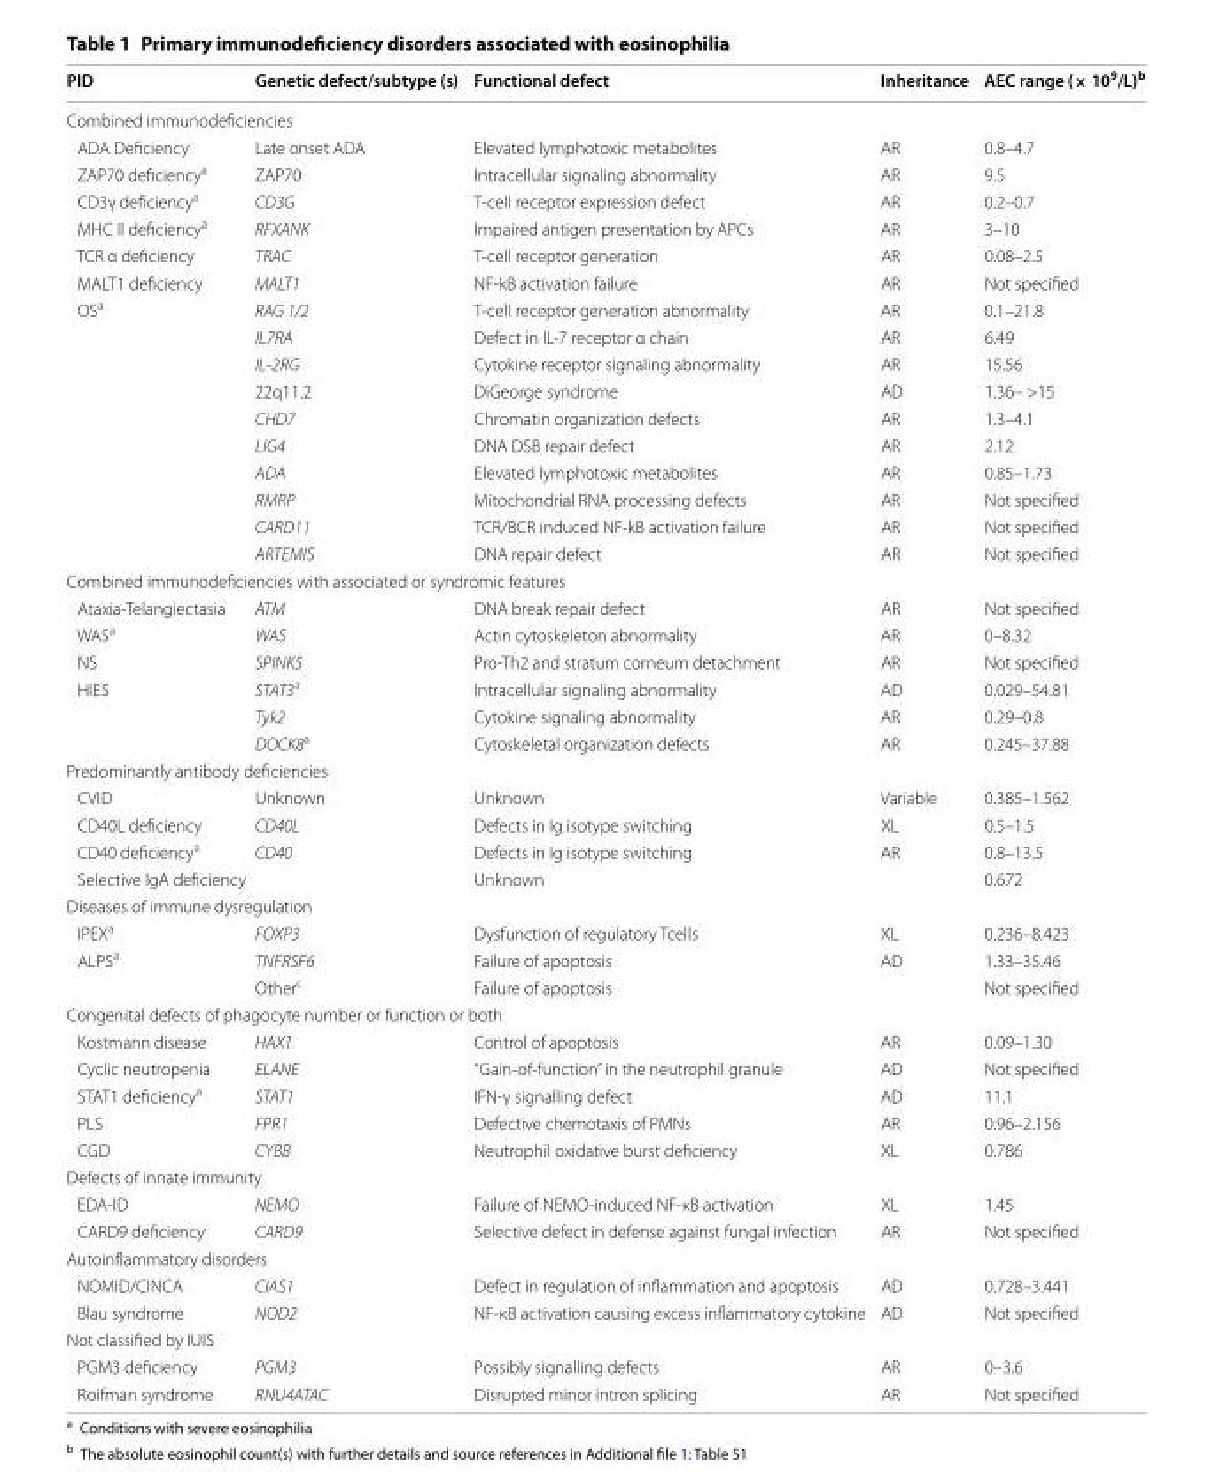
<table><thead><tr><td>PID</td><td>Genetic defect/subtype (s)</td><td>Functional defect</td><td>Inheritance</td><td>AEC range (× 10<sup>9</sup>/L)<sup>b</sup></td></tr></thead><tbody><tr><td colspan="5">Combined immunodeficiencies</td></tr><tr><td>ADA Deficiency</td><td>Late onset ADA</td><td>Elevated lymphotoxic metabolites</td><td>AR</td><td>0.8–4.7</td></tr><tr><td>ZAP70 deficiency<sup>a</sup></td><td>ZAP70</td><td>Intracellular signaling abnormality</td><td>AR</td><td>9.5</td></tr><tr><td>CD3γ deficiency<sup>a</sup></td><td>CD3G</td><td>T-cell receptor expression defect</td><td>AR</td><td>0.2–0.7</td></tr><tr><td>MHC II deficiency<sup>a</sup></td><td>RFXANK</td><td>Impaired antigen presentation by APCs</td><td>AR</td><td>3–10</td></tr><tr><td>TCR α deficiency</td><td>TRAC</td><td>T-cell receptor generation</td><td>AR</td><td>0.08–2.5</td></tr><tr><td>MALT1 deficiency</td><td>MALT1</td><td>NF-kB activation failure</td><td>AR</td><td>Not specified</td></tr><tr><td rowspan="10">OS<sup>a</sup></td><td>RAG 1/2</td><td>T-cell receptor generation abnormality</td><td>AR</td><td>0.1–21.8</td></tr><tr><td>IL7RA</td><td>Defect in IL-7 receptor α chain</td><td>AR</td><td>6.49</td></tr><tr><td>IL-2RG</td><td>Cytokine receptor signaling abnormality</td><td>AR</td><td>15.56</td></tr><tr><td>22q11.2</td><td>DiGeorge syndrome</td><td>AD</td><td>1.36– &gt;15</td></tr><tr><td>CHD7</td><td>Chromatin organization defects</td><td>AR</td><td>1.3–4.1</td></tr><tr><td>LIG4</td><td>DNA DSB repair defect</td><td>AR</td><td>2.12</td></tr><tr><td>ADA</td><td>Elevated lymphotoxic metabolites</td><td>AR</td><td>0.85–1.73</td></tr><tr><td>RMRP</td><td>Mitochondrial RNA processing defects</td><td>AR</td><td>Not specified</td></tr><tr><td>CARD11</td><td>TCR/BCR induced NF-kB activation failure</td><td>AR</td><td>Not specified</td></tr><tr><td>ARTEMIS</td><td>DNA repair defect</td><td>AR</td><td>Not specified</td></tr><tr><td colspan="5">Combined immunodeficiencies with associated or syndromic features</td></tr><tr><td>Ataxia-Telangiectasia</td><td>ATM</td><td>DNA break repair defect</td><td>AR</td><td>Not specified</td></tr><tr><td>WAS<sup>a</sup></td><td>WAS</td><td>Actin cytoskeleton abnormality</td><td>AR</td><td>0–8.32</td></tr><tr><td>NS</td><td>SPINK5</td><td>Pro-Th2 and stratum corneum detachment</td><td>AR</td><td>Not specified</td></tr><tr><td rowspan="3">HIES</td><td>STAT3<sup>a</sup></td><td>Intracellular signaling abnormality</td><td>AD</td><td>0.029–54.81</td></tr><tr><td>Tyk2</td><td>Cytokine signaling abnormality</td><td>AR</td><td>0.29–0.8</td></tr><tr><td>DOCK8<sup>a</sup></td><td>Cytoskeletal organization defects</td><td>AR</td><td>0.245–37.88</td></tr><tr><td colspan="5">Predominantly antibody deficiencies</td></tr><tr><td>CVID</td><td>Unknown</td><td>Unknown</td><td>Variable</td><td>0.385–1.562</td></tr><tr><td>CD40L deficiency</td><td>CD40L</td><td>Defects in Ig isotype switching</td><td>XL</td><td>0.5–1.5</td></tr><tr><td>CD40 deficiency<sup>a</sup></td><td>CD40</td><td>Defects in Ig isotype switching</td><td>AR</td><td>0.8–13.5</td></tr><tr><td>Selective IgA deficiency</td><td></td><td>Unknown</td><td></td><td>0.672</td></tr><tr><td colspan="5">Diseases of immune dysregulation</td></tr><tr><td>IPEX<sup>a</sup></td><td>FOXP3</td><td>Dysfunction of regulatory Tcells</td><td>XL</td><td>0.236–8.423</td></tr><tr><td rowspan="2">ALPS<sup>a</sup></td><td>TNFRSF6</td><td>Failure of apoptosis</td><td>AD</td><td>1.33–35.46</td></tr><tr><td>Other<sup>c</sup></td><td>Failure of apoptosis</td><td></td><td>Not specified</td></tr><tr><td colspan="5">Congenital defects of phagocyte number or function or both</td></tr><tr><td>Kostmann disease</td><td>HAX1</td><td>Control of apoptosis</td><td>AR</td><td>0.09–1.30</td></tr><tr><td>Cyclic neutropenia</td><td>ELANE</td><td>“Gain-of-function” in the neutrophil granule</td><td>AD</td><td>Not specified</td></tr><tr><td>STAT1 deficiency<sup>a</sup></td><td>STAT1</td><td>IFN-γ signalling defect</td><td>AD</td><td>11.1</td></tr><tr><td>PLS</td><td>FPR1</td><td>Defective chemotaxis of PMNs</td><td>AR</td><td>0.96–2.156</td></tr><tr><td>CGD</td><td>CYBB</td><td>Neutrophil oxidative burst deficiency</td><td>XL</td><td>0.786</td></tr><tr><td colspan="5">Defects of innate immunity</td></tr><tr><td>EDA-ID</td><td>NEMO</td><td>Failure of NEMO-induced NF-κB activation</td><td>XL</td><td>1.45</td></tr><tr><td>CARD9 deficiency</td><td>CARD9</td><td>Selective defect in defense against fungal infection</td><td>AR</td><td>Not specified</td></tr><tr><td colspan="5">Autoinflammatory disorders</td></tr><tr><td>NOMID/CINCA</td><td>CIAS1</td><td>Defect in regulation of inflammation and apoptosis</td><td>AD</td><td>0.728–3.441</td></tr><tr><td>Blau syndrome</td><td>NOD2</td><td>NF-κB activation causing excess inflammatory cytokine</td><td>AD</td><td>Not specified</td></tr><tr><td colspan="5">Not classified by IUIS</td></tr><tr><td>PGM3 deficiency</td><td>PGM3</td><td>Possibly signalling defects</td><td>AR</td><td>0–3.6</td></tr><tr><td>Roifman syndrome</td><td>RNU4ATAC</td><td>Disrupted minor intron splicing</td><td>AR</td><td>Not specified</td></tr></tbody></table>